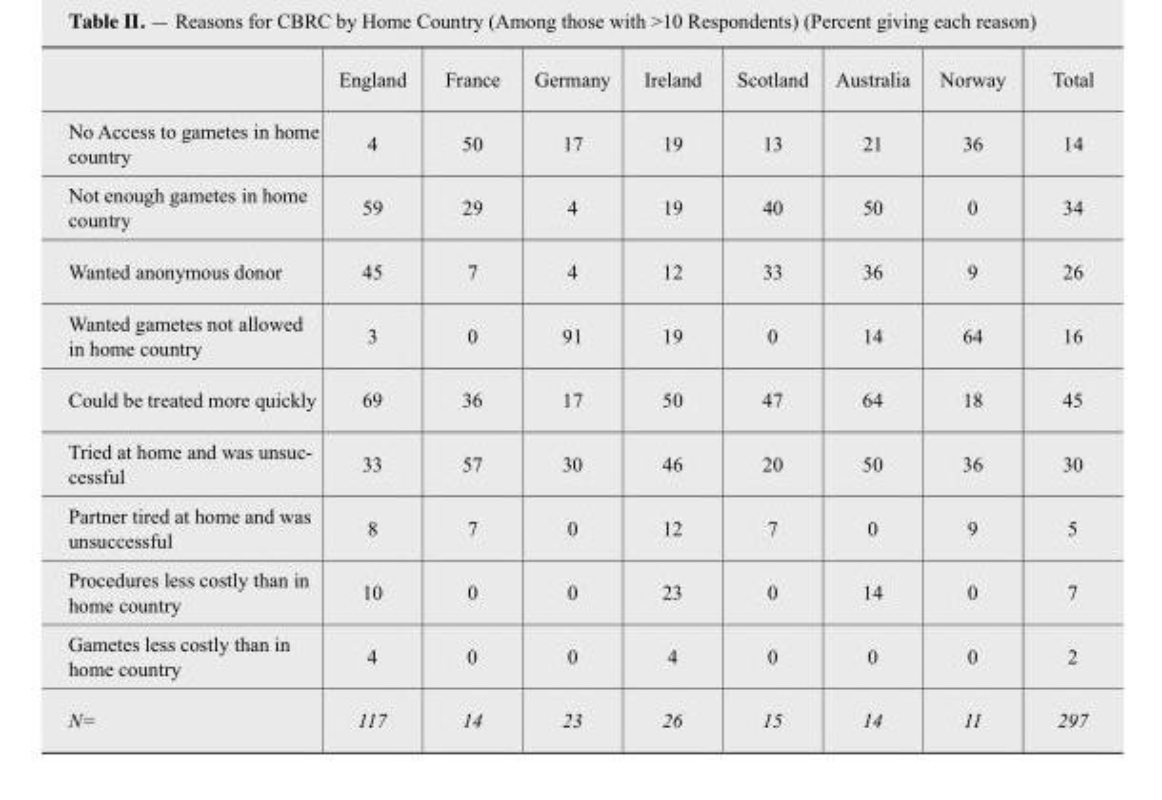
<table><thead><tr><td></td><td>England</td><td>France</td><td>Germany</td><td>Ireland</td><td>Scotland</td><td>Australia</td><td>Norway</td><td>Total</td></tr></thead><tbody><tr><td>No Access to gametes in home country</td><td>4</td><td>50</td><td>17</td><td>19</td><td>13</td><td>21</td><td>36</td><td>14</td></tr><tr><td>Not enough gametes in home country</td><td>59</td><td>29</td><td>4</td><td>19</td><td>40</td><td>50</td><td>0</td><td>34</td></tr><tr><td>Wanted anonymous donor</td><td>45</td><td>7</td><td>4</td><td>12</td><td>33</td><td>36</td><td>9</td><td>26</td></tr><tr><td>Wanted gametes not allowed in home country</td><td>3</td><td>0</td><td>91</td><td>19</td><td>0</td><td>14</td><td>64</td><td>16</td></tr><tr><td>Could be treated more quickly</td><td>69</td><td>36</td><td>17</td><td>50</td><td>47</td><td>64</td><td>18</td><td>45</td></tr><tr><td>Tried at home and was unsuc- cessful</td><td>33</td><td>57</td><td>30</td><td>46</td><td>20</td><td>50</td><td>36</td><td>30</td></tr><tr><td>Partner tired at home and was unsuccessful</td><td>8</td><td>7</td><td>0</td><td>12</td><td>7</td><td>0</td><td>9</td><td>5</td></tr><tr><td>Procedures less costly than in home country</td><td>10</td><td>0</td><td>0</td><td>23</td><td>0</td><td>14</td><td>0</td><td>7</td></tr><tr><td>Gametes less costly than in home country</td><td>4</td><td>0</td><td>0</td><td>4</td><td>0</td><td>0</td><td>0</td><td>2</td></tr><tr><td>N=</td><td>117</td><td>14</td><td>23</td><td>26</td><td>15</td><td>14</td><td>11</td><td>297</td></tr></tbody></table>